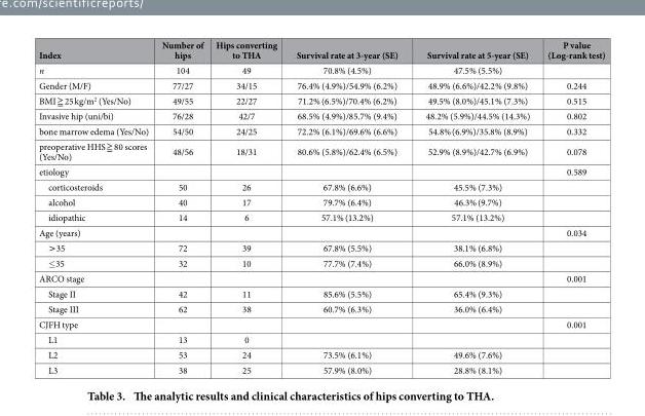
<table><thead><tr><td>Index</td><td>Number of hips</td><td>Hips converting to THA</td><td>Survival rate at 3-year (SE)</td><td>Survival rate at 5-year (SE)</td><td>P value (Log-rank test)</td></tr></thead><tbody><tr><td>n</td><td>104</td><td>49</td><td>70.8% (4.5%)</td><td>47.5% (5.5%)</td><td></td></tr><tr><td>Gender (M/F)</td><td>77/27</td><td>34/15</td><td>76.4% (4.9%)/54.9% (6.2%)</td><td>48.9% (6.6%)/42.2% (9.8%)</td><td>0.244</td></tr><tr><td>BMI ≧ 25 kg/m<sup>2</sup> (Yes/No)</td><td>49/55</td><td>22/27</td><td>71.2% (6.5%)/70.4% (6.2%)</td><td>49.5% (8.0%)/45.1% (7.3%)</td><td>0.515</td></tr><tr><td>Invasive hip (uni/bi)</td><td>76/28</td><td>42/7</td><td>68.5% (4.9%)/85.7% (9.4%)</td><td>48.2% (5.9%)/44.5% (14.3%)</td><td>0.802</td></tr><tr><td>bone marrow edema (Yes/No)</td><td>54/50</td><td>24/25</td><td>72.2% (6.1%)/69.6% (6.6%)</td><td>54.8% (6.9%)/35.8% (8.9%)</td><td>0.332</td></tr><tr><td>preoperative HHS ≧ 80 scores (Yes/No)</td><td>48/56</td><td>18/31</td><td>80.6% (5.8%)/62.4% (6.5%)</td><td>52.9% (8.9%)/42.7% (6.9%)</td><td>0.078</td></tr><tr><td>etiology</td><td></td><td></td><td></td><td></td><td>0.589</td></tr><tr><td>corticosteroids</td><td>50</td><td>26</td><td>67.8% (6.6%)</td><td>45.5% (7.3%)</td><td></td></tr><tr><td>alcohol</td><td>40</td><td>17</td><td>79.7% (6.4%)</td><td>46.3% (9.7%)</td><td></td></tr><tr><td>idiopathic</td><td>14</td><td>6</td><td>57.1% (13.2%)</td><td>57.1% (13.2%)</td><td></td></tr><tr><td>Age (years)</td><td></td><td></td><td></td><td></td><td>0.034</td></tr><tr><td>35</td><td>72</td><td>39</td><td>67.8% (5.5%)</td><td>38.1% (6.8%)</td><td></td></tr><tr><td>≤35</td><td>32</td><td>10</td><td>77.7% (7.4%)</td><td>66.0% (8.9%)</td><td></td></tr><tr><td>ARCO stage</td><td></td><td></td><td></td><td></td><td>0.001</td></tr><tr><td>Stage II</td><td>42</td><td>11</td><td>85.6% (5.5%)</td><td>65.4% (9.3%)</td><td></td></tr><tr><td>Stage III</td><td>62</td><td>38</td><td>60.7% (6.3%)</td><td>36.0% (6.4%)</td><td></td></tr><tr><td>CJFH type</td><td></td><td></td><td></td><td></td><td>0.001</td></tr><tr><td>L1</td><td>13</td><td>0</td><td></td><td></td><td></td></tr><tr><td>L2</td><td>53</td><td>24</td><td>73.5% (6.1%)</td><td>49.6% (7.6%)</td><td></td></tr><tr><td>L3</td><td>38</td><td>25</td><td>57.9% (8.0%)</td><td>28.8% (8.1%)</td><td></td></tr></tbody></table>